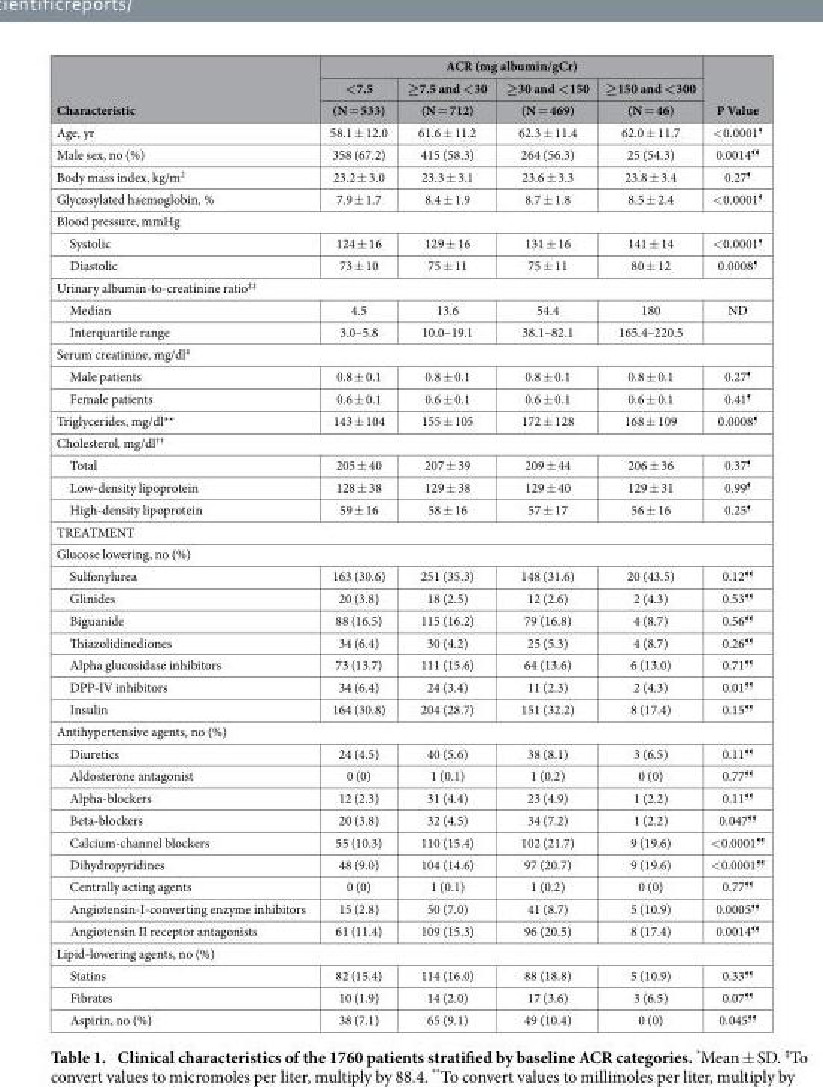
<table><thead><tr><td rowspan="3">Characteristic</td><td colspan="4">ACR (mg albumin/gCr)</td><td rowspan="3">P Value</td></tr><tr><td rowspan="2">&lt;7.5 (N = 533)</td><td rowspan="2">≥7.5 and &lt;30 (N = 712)</td><td rowspan="2">≥30 and &lt;150 (N = 469)</td><td rowspan="2">≥150 and &lt;300 (N = 46)</td></tr><tr></tr></thead><tbody><tr><td>Age, yr</td><td>58.1 ± 12.0</td><td>61.6 ± 11.2</td><td>62.3 ± 11.4</td><td>62.0 ± 11.7</td><td>&lt; 0.0001¶</td></tr><tr><td>Male sex, no (%)</td><td>358 (67.2)</td><td>415 (58.3)</td><td>264 (56.3)</td><td>25 (54.3)</td><td>0.0014¶¶</td></tr><tr><td>Body mass index, kg/m<sup>2</sup></td><td>23.2 ± 3.0</td><td>23.3 ± 3.1</td><td>23.6 ± 3.3</td><td>23.8 ± 3.4</td><td>0.27¶</td></tr><tr><td>Glycosylated haemoglobin, %</td><td>7.9 ± 1.7</td><td>8.4 ± 1.9</td><td>8.7 ± 1.8</td><td>8.5 ± 2.4</td><td>&lt; 0.0001¶</td></tr><tr><td colspan="6">Blood pressure, mmHg</td></tr><tr><td>Systolic</td><td>124 ± 16</td><td>129 ± 16</td><td>131 ± 16</td><td>141 ± 14</td><td>&lt; 0.0001¶</td></tr><tr><td>Diastolic</td><td>73 ± 10</td><td>75 ± 11</td><td>75 ± 11</td><td>80 ± 12</td><td>0.0008¶</td></tr><tr><td colspan="6">Urinary albumin-to-creatinine ratio‡‡</td></tr><tr><td>Median</td><td>4.5</td><td>13.6</td><td>54.4</td><td>180</td><td>ND</td></tr><tr><td>Interquartile range</td><td>3.0–5.8</td><td>10.0–19.1</td><td>38.1–82.1</td><td>165.4–220.5</td><td></td></tr><tr><td colspan="6">Serum creatinine, mg/dl‡</td></tr><tr><td>Male patients</td><td>0.8 ± 0.1</td><td>0.8 ± 0.1</td><td>0.8 ± 0.1</td><td>0.8 ± 0.1</td><td>0.27¶</td></tr><tr><td>Female patients</td><td>0.6 ± 0.1</td><td>0.6 ± 0.1</td><td>0.6 ± 0.1</td><td>0.6 ± 0.1</td><td>0.41¶</td></tr><tr><td>Triglycerides, mg/dl**</td><td>143 ± 104</td><td>155 ± 105</td><td>172 ± 128</td><td>168 ± 109</td><td>0.0008¶</td></tr><tr><td colspan="6">Cholesterol, mg/dl††</td></tr><tr><td>Total</td><td>205 ± 40</td><td>207 ± 39</td><td>209 ± 44</td><td>206 ± 36</td><td>0.37¶</td></tr><tr><td>Low-density lipoprotein</td><td>128 ± 38</td><td>129 ± 38</td><td>129 ± 40</td><td>129 ± 31</td><td>0.99<sup>¶</sup></td></tr><tr><td>High-density lipoprotein</td><td>59 ± 16</td><td>58 ± 16</td><td>57 ± 17</td><td>56 ± 16</td><td>0.25¶</td></tr><tr><td colspan="6">TREATMENT</td></tr><tr><td colspan="6">Glucose lowering, no (%)</td></tr><tr><td>Sulfonylurea</td><td>163 (30.6)</td><td>251 (35.3)</td><td>148 (31.6)</td><td>20 (43.5)</td><td>0.12¶¶</td></tr><tr><td>Glinides</td><td>20 (3.8)</td><td>18 (2.5)</td><td>12 (2.6)</td><td>2 (4.3)</td><td>0.53¶¶</td></tr><tr><td>Biguanide</td><td>88 (16.5)</td><td>115 (16.2)</td><td>79 (16.8)</td><td>4 (8.7)</td><td>0.56¶¶</td></tr><tr><td>Thiazolidinediones</td><td>34 (6.4)</td><td>30 (4.2)</td><td>25 (5.3)</td><td>4 (8.7)</td><td>0.26¶¶</td></tr><tr><td>Alpha glucosidase inhibitors</td><td>73 (13.7)</td><td>111 (15.6)</td><td>64 (13.6)</td><td>6 (13.0)</td><td>0.71¶¶</td></tr><tr><td>DPP-IV inhibitors</td><td>34 (6.4)</td><td>24 (3.4)</td><td>11 (2.3)</td><td>2 (4.3)</td><td>0.01¶¶</td></tr><tr><td>Insulin</td><td>164 (30.8)</td><td>204 (28.7)</td><td>151 (32.2)</td><td>8 (17.4)</td><td>0.15¶¶</td></tr><tr><td colspan="6">Antihypertensive agents, no (%)</td></tr><tr><td>Diuretics</td><td>24 (4.5)</td><td>40 (5.6)</td><td>38 (8.1)</td><td>3 (6.5)</td><td>0.11¶¶</td></tr><tr><td>Aldosterone antagonist</td><td>0 (0)</td><td>1 (0.1)</td><td>1 (0.2)</td><td>0 (0)</td><td>0.77¶¶</td></tr><tr><td>Alpha-blockers</td><td>12 (2.3)</td><td>31 (4.4)</td><td>23 (4.9)</td><td>1 (2.2)</td><td>0.11¶¶</td></tr><tr><td>Beta-blockers</td><td>20 (3.8)</td><td>32 (4.5)</td><td>34 (7.2)</td><td>1 (2.2)</td><td>0.047¶¶</td></tr><tr><td>Calcium-channel blockers</td><td>55 (10.3)</td><td>110 (15.4)</td><td>102 (21.7)</td><td>9 (19.6)</td><td>&lt; 0.0001¶¶</td></tr><tr><td>Dihydropyridines</td><td>48 (9.0)</td><td>104 (14.6)</td><td>97 (20.7)</td><td>9 (19.6)</td><td>&lt; 0.0001¶¶</td></tr><tr><td>Centrally acting agents</td><td>0 (0)</td><td>1 (0.1)</td><td>1 (0.2)</td><td>0 (0)</td><td>0.77¶¶</td></tr><tr><td>Angiotensin-I-converting enzyme inhibitors</td><td>15 (2.8)</td><td>50 (7.0)</td><td>41 (8.7)</td><td>5 (10.9)</td><td>0.0005¶¶</td></tr><tr><td>Angiotensin II receptor antagonists</td><td>61 (11.4)</td><td>109 (15.3)</td><td>96 (20.5)</td><td>8 (17.4)</td><td>0.0014¶¶</td></tr><tr><td colspan="6">Lipid-lowering agents, no (%)</td></tr><tr><td>Statins</td><td>82 (15.4)</td><td>114 (16.0)</td><td>88 (18.8)</td><td>5 (10.9)</td><td>0.33¶¶</td></tr><tr><td>Fibrates</td><td>10 (1.9)</td><td>14 (2.0)</td><td>17 (3.6)</td><td>3 (6.5)</td><td>0.07¶¶</td></tr><tr><td>Aspirin, no (%)</td><td>38 (7.1)</td><td>65 (9.1)</td><td>49 (10.4)</td><td>0 (0)</td><td>0.045¶¶</td></tr></tbody></table>